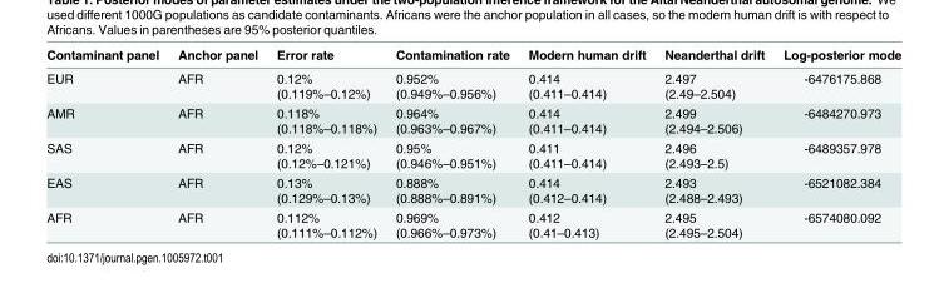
<table><thead><tr><td>Contaminant panel</td><td>Anchor panel</td><td>Error rate</td><td>Contamination rate</td><td>Modern human drift</td><td>Neanderthal drift</td><td>Log-posterior mode</td></tr></thead><tbody><tr><td>EUR</td><td>AFR</td><td>0.12% (0.119%–0.12%)</td><td>0.952% (0.949%–0.956%)</td><td>0.414 (0.411–0.414)</td><td>2.497 (2.49–2.504)</td><td>-6476175.868</td></tr><tr><td>AMR</td><td>AFR</td><td>0.118% (0.118%–0.118%)</td><td>0.964% (0.963%–0.967%)</td><td>0.414 (0.411–0.414)</td><td>2.499 (2.494–2.506)</td><td>-6484270.973</td></tr><tr><td>SAS</td><td>AFR</td><td>0.12% (0.12%–0.121%)</td><td>0.95% (0.946%–0.951%)</td><td>0.411 (0.411–0.414)</td><td>2.496 (2.493–2.5)</td><td>-6489357.978</td></tr><tr><td>EAS</td><td>AFR</td><td>0.13% (0.129%–0.13%)</td><td>0.888% (0.888%–0.891%)</td><td>0.414 (0.412–0.414)</td><td>2.493 (2.488–2.493)</td><td>-6521082.384</td></tr><tr><td>AFR</td><td>AFR</td><td>0.112% (0.111%–0.112%)</td><td>0.969% (0.966%–0.973%)</td><td>0.412 (0.41–0.413)</td><td>2.495 (2.495–2.504)</td><td>-6574080.092</td></tr></tbody></table>